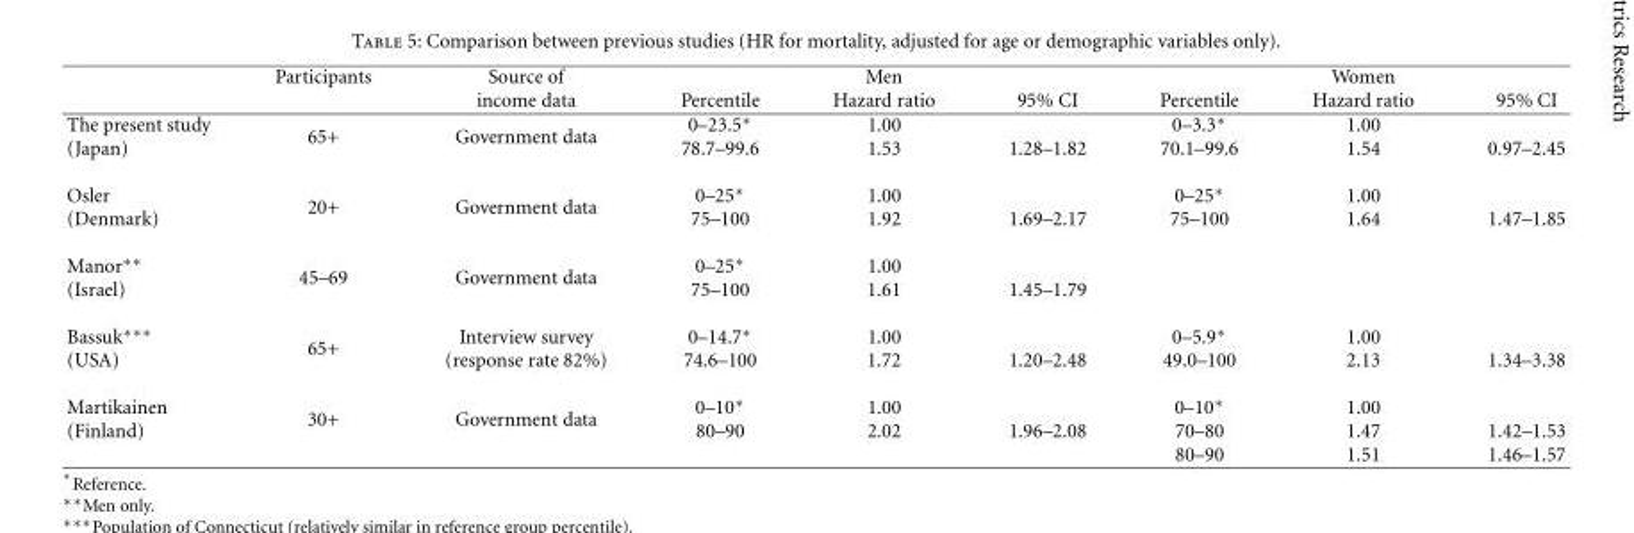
<table><thead><tr><td rowspan="2"></td><td rowspan="2">Participants</td><td rowspan="2">Source of income data</td><td rowspan="2">Percentile</td><td rowspan="2">Men Hazard ratio</td><td rowspan="2">95% CI</td><td rowspan="2">Percentile</td><td rowspan="2">Women Hazard ratio</td><td rowspan="2">95% CI</td></tr><tr></tr></thead><tbody><tr><td>The present study</td><td rowspan="2">65+</td><td rowspan="2">Government data</td><td>0–23.5∗</td><td>1.00</td><td></td><td>0–3.3∗</td><td>1.00</td><td></td></tr><tr><td>(Japan)</td><td>78.7–99.6</td><td>1.53</td><td>1.28–1.82</td><td>70.1–99.6</td><td>1.54</td><td>0.97–2.45</td></tr><tr><td>Osler</td><td rowspan="2">20+</td><td rowspan="2">Government data</td><td>0–25∗</td><td>1.00</td><td></td><td>0–25∗</td><td>1.00</td><td></td></tr><tr><td>(Denmark)</td><td>75–100</td><td>1.92</td><td>1.69–2.17</td><td>75–100</td><td>1.64</td><td>1.47–1.85</td></tr><tr><td>Manor∗∗</td><td rowspan="2">45–69</td><td rowspan="2">Government data</td><td>0–25∗</td><td>1.00</td><td></td><td></td><td></td><td></td></tr><tr><td>(Israel)</td><td>75–100</td><td>1.61</td><td>1.45–1.79</td><td></td><td></td><td></td></tr><tr><td>Bassuk∗∗∗</td><td rowspan="2">65+</td><td>Interview survey</td><td>0–14.7∗</td><td>1.00</td><td></td><td>0–5.9∗</td><td>1.00</td><td></td></tr><tr><td>(USA)</td><td>(response rate 82%)</td><td>74.6–100</td><td>1.72</td><td>1.20–2.48</td><td>49.0–100</td><td>2.13</td><td>1.34–3.38</td></tr><tr><td>Martikainen</td><td rowspan="2">30+</td><td rowspan="2">Government data</td><td>0–10∗</td><td>1.00</td><td></td><td>0–10∗</td><td>1.00</td><td></td></tr><tr><td rowspan="2">(Finland)</td><td>80–90</td><td>2.02</td><td>1.96–2.08</td><td>70–80</td><td>1.47</td><td>1.42–1.53</td></tr><tr><td></td><td></td><td></td><td></td><td></td><td>80–90</td><td>1.51</td><td>1.46–1.57</td></tr></tbody></table>